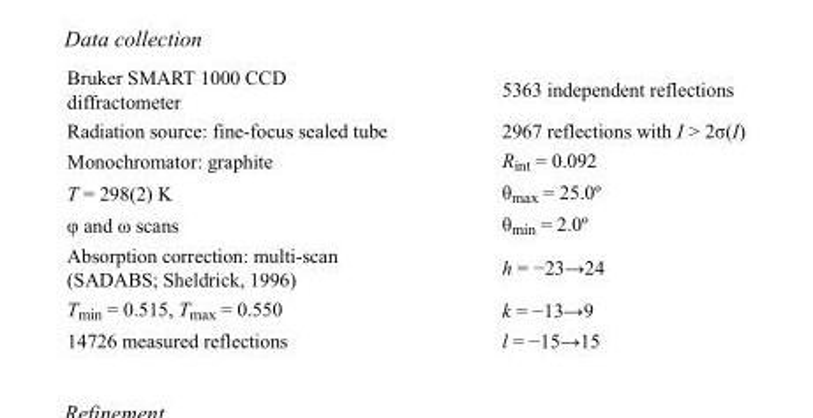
<table><tbody><tr><td>Bruker SMART 1000 CCD diffractometer</td><td>5363 independent reflections</td></tr><tr><td>Radiation source: fine-focus sealed tube</td><td>2967 reflections with I &gt; 2σ(I)</td></tr><tr><td>Monochromator: graphite</td><td>R<sub>int</sub> = 0.092</td></tr><tr><td>T = 298(2) K</td><td>θ<sub>max</sub> = 25.0º</td></tr><tr><td>φ and ω scans</td><td>θ<sub>min</sub> = 2.0º</td></tr><tr><td>Absorption correction: multi-scan (SADABS; Sheldrick, 1996)</td><td>h = −23→24</td></tr><tr><td>T<sub>min</sub> = 0.515, T<sub>max</sub> = 0.550</td><td>k = −13→9</td></tr><tr><td>14726 measured reflections</td><td>l = −15→15</td></tr></tbody></table>